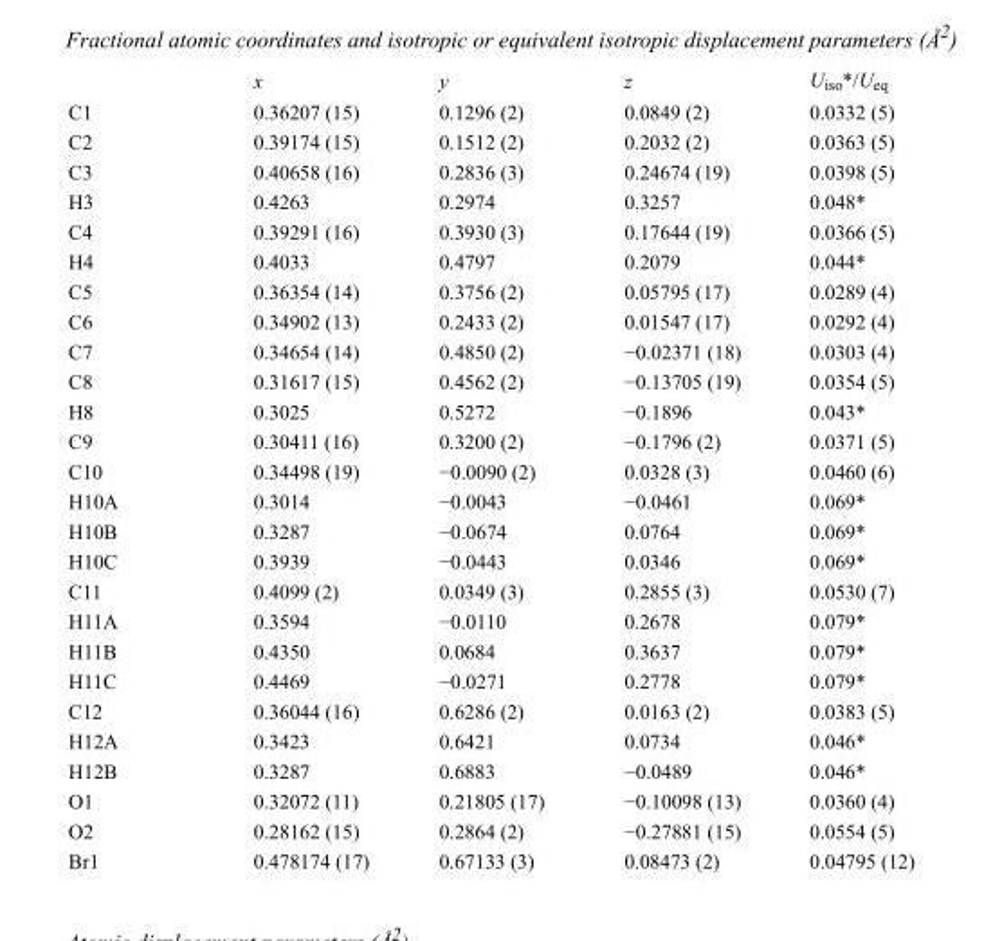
<table><thead><tr><td></td><td>x</td><td>y</td><td>z</td><td>U<sub>iso</sub>*/U<sub>eq</sub></td></tr></thead><tbody><tr><td>C1</td><td>0.36207 (15)</td><td>0.1296 (2)</td><td>0.0849 (2)</td><td>0.0332 (5)</td></tr><tr><td>C2</td><td>0.39174 (15)</td><td>0.1512 (2)</td><td>0.2032 (2)</td><td>0.0363 (5)</td></tr><tr><td>C3</td><td>0.40658 (16)</td><td>0.2836 (3)</td><td>0.24674 (19)</td><td>0.0398 (5)</td></tr><tr><td>H3</td><td>0.4263</td><td>0.2974</td><td>0.3257</td><td>0.048*</td></tr><tr><td>C4</td><td>0.39291 (16)</td><td>0.3930 (3)</td><td>0.17644 (19)</td><td>0.0366 (5)</td></tr><tr><td>H4</td><td>0.4033</td><td>0.4797</td><td>0.2079</td><td>0.044*</td></tr><tr><td>C5</td><td>0.36354 (14)</td><td>0.3756 (2)</td><td>0.05795 (17)</td><td>0.0289 (4)</td></tr><tr><td>C6</td><td>0.34902 (13)</td><td>0.2433 (2)</td><td>0.01547 (17)</td><td>0.0292 (4)</td></tr><tr><td>C7</td><td>0.34654 (14)</td><td>0.4850 (2)</td><td>−0.02371 (18)</td><td>0.0303 (4)</td></tr><tr><td>C8</td><td>0.31617 (15)</td><td>0.4562 (2)</td><td>−0.13705 (19)</td><td>0.0354 (5)</td></tr><tr><td>H8</td><td>0.3025</td><td>0.5272</td><td>−0.1896</td><td>0.043*</td></tr><tr><td>C9</td><td>0.30411 (16)</td><td>0.3200 (2)</td><td>−0.1796 (2)</td><td>0.0371 (5)</td></tr><tr><td>C10</td><td>0.34498 (19)</td><td>−0.0090 (2)</td><td>0.0328 (3)</td><td>0.0460 (6)</td></tr><tr><td>H10A</td><td>0.3014</td><td>−0.0043</td><td>−0.0461</td><td>0.069*</td></tr><tr><td>H10B</td><td>0.3287</td><td>−0.0674</td><td>0.0764</td><td>0.069*</td></tr><tr><td>H10C</td><td>0.3939</td><td>−0.0443</td><td>0.0346</td><td>0.069*</td></tr><tr><td>C11</td><td>0.4099 (2)</td><td>0.0349 (3)</td><td>0.2855 (3)</td><td>0.0530 (7)</td></tr><tr><td>H11A</td><td>0.3594</td><td>−0.0110</td><td>0.2678</td><td>0.079*</td></tr><tr><td>H11B</td><td>0.4350</td><td>0.0684</td><td>0.3637</td><td>0.079*</td></tr><tr><td>H11C</td><td>0.4469</td><td>−0.0271</td><td>0.2778</td><td>0.079*</td></tr><tr><td>C12</td><td>0.36044 (16)</td><td>0.6286 (2)</td><td>0.0163 (2)</td><td>0.0383 (5)</td></tr><tr><td>H12A</td><td>0.3423</td><td>0.6421</td><td>0.0734</td><td>0.046*</td></tr><tr><td>H12B</td><td>0.3287</td><td>0.6883</td><td>−0.0489</td><td>0.046*</td></tr><tr><td>O1</td><td>0.32072 (11)</td><td>0.21805 (17)</td><td>−0.10098 (13)</td><td>0.0360 (4)</td></tr><tr><td>O2</td><td>0.28162 (15)</td><td>0.2864 (2)</td><td>−0.27881 (15)</td><td>0.0554 (5)</td></tr><tr><td>Br1</td><td>0.478174 (17)</td><td>0.67133 (3)</td><td>0.08473 (2)</td><td>0.04795 (12)</td></tr></tbody></table>